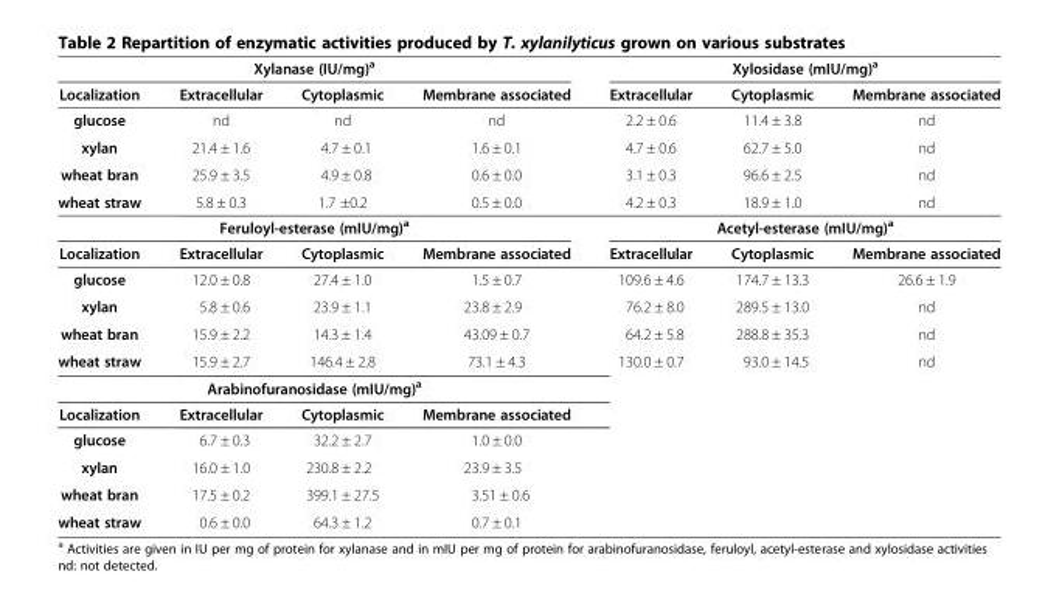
<table><thead><tr><td colspan="4">Xylanase (IU/mg)<sup>a</sup></td><td colspan="3">Xylosidase (mIU/mg)<sup>a</sup></td></tr><tr><td>Localization</td><td>Extracellular</td><td>Cytoplasmic</td><td>Membrane associated</td><td>Extracellular</td><td>Cytoplasmic</td><td>Membrane associated</td></tr></thead><tbody><tr><td>glucose</td><td>nd</td><td>nd</td><td>nd</td><td>2.2 ± 0.6</td><td>11.4 ± 3.8</td><td>nd</td></tr><tr><td>xylan</td><td>21.4 ± 1.6</td><td>4.7 ± 0.1</td><td>1.6 ± 0.1</td><td>4.7 ± 0.6</td><td>62.7 ± 5.0</td><td>nd</td></tr><tr><td>wheat bran</td><td>25.9 ± 3.5</td><td>4.9 ± 0.8</td><td>0.6 ± 0.0</td><td>3.1 ± 0.3</td><td>96.6 ± 2.5</td><td>nd</td></tr><tr><td>wheat straw</td><td>5.8 ± 0.3</td><td>1.7 ±0.2</td><td>0.5 ± 0.0</td><td>4.2 ± 0.3</td><td>18.9 ± 1.0</td><td>nd</td></tr><tr><td colspan="4">Feruloyl-esterase (mIU/mg)<sup>a</sup></td><td colspan="3">Acetyl-esterase (mIU/mg)<sup>a</sup></td></tr><tr><td>Localization</td><td>Extracellular</td><td>Cytoplasmic</td><td>Membrane associated</td><td>Extracellular</td><td>Cytoplasmic</td><td>Membrane associated</td></tr><tr><td>glucose</td><td>12.0 ± 0.8</td><td>27.4 ± 1.0</td><td>1.5 ± 0.7</td><td>109.6 ± 4.6</td><td>174.7 ± 13.3</td><td>26.6 ± 1.9</td></tr><tr><td>xylan</td><td>5.8 ± 0.6</td><td>23.9 ± 1.1</td><td>23.8 ± 2.9</td><td>76.2 ± 8.0</td><td>289.5 ± 13.0</td><td>nd</td></tr><tr><td>wheat bran</td><td>15.9 ± 2.2</td><td>14.3 ± 1.4</td><td>43.09 ± 0.7</td><td>64.2 ± 5.8</td><td>288.8 ± 35.3</td><td>nd</td></tr><tr><td>wheat straw</td><td>15.9 ± 2.7</td><td>146.4 ± 2.8</td><td>73.1 ± 4.3</td><td>130.0 ± 0.7</td><td>93.0 ± 14.5</td><td>nd</td></tr><tr><td colspan="4">Arabinofuranosidase (mIU/mg)<sup>a</sup></td><td rowspan="6" colspan="3"></td></tr><tr><td>Localization</td><td>Extracellular</td><td>Cytoplasmic</td><td>Membrane associated</td></tr><tr><td>glucose</td><td>6.7 ± 0.3</td><td>32.2 ± 2.7</td><td>1.0 ± 0.0</td></tr><tr><td>xylan</td><td>16.0 ± 1.0</td><td>230.8 ± 2.2</td><td>23.9 ± 3.5</td></tr><tr><td>wheat bran</td><td>17.5 ± 0.2</td><td>399.1 ± 27.5</td><td>3.51 ± 0.6</td></tr><tr><td>wheat straw</td><td>0.6 ± 0.0</td><td>64.3 ± 1.2</td><td>0.7 ± 0.1</td></tr></tbody></table>